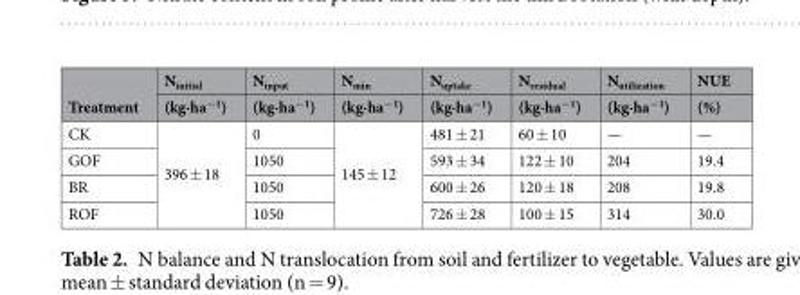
<table><thead><tr><td rowspan="2">Treatment</td><td rowspan="2">N<sub>initial</sub> (kg·ha<sup>−1</sup>)</td><td rowspan="2">N<sub>input</sub> (kg·ha<sup>−1</sup>)</td><td rowspan="2">N<sub>min</sub> (kg·ha<sup>−1</sup>)</td><td rowspan="2">N<sub>uptake</sub> (kg·ha<sup>−1</sup>)</td><td rowspan="2">N<sub>residual</sub> (kg·ha<sup>−1</sup>)</td><td rowspan="2">N<sub>utilization</sub> (kg·ha<sup>−1</sup>)</td><td rowspan="2">NUE (%)</td></tr><tr></tr></thead><tbody><tr><td>CK</td><td rowspan="4">396 ± 18</td><td>0</td><td rowspan="4">145 ± 12</td><td>481 ± 21</td><td>60 ± 10</td><td>—</td><td>—</td></tr><tr><td>GOF</td><td>1050</td><td>593 ± 34</td><td>122 ± 10</td><td>204</td><td>19.4</td></tr><tr><td>BR</td><td>1050</td><td>600 ± 26</td><td>120 ± 18</td><td>208</td><td>19.8</td></tr><tr><td>ROF</td><td>1050</td><td>726 ± 28</td><td>100 ± 15</td><td>314</td><td>30.0</td></tr></tbody></table>